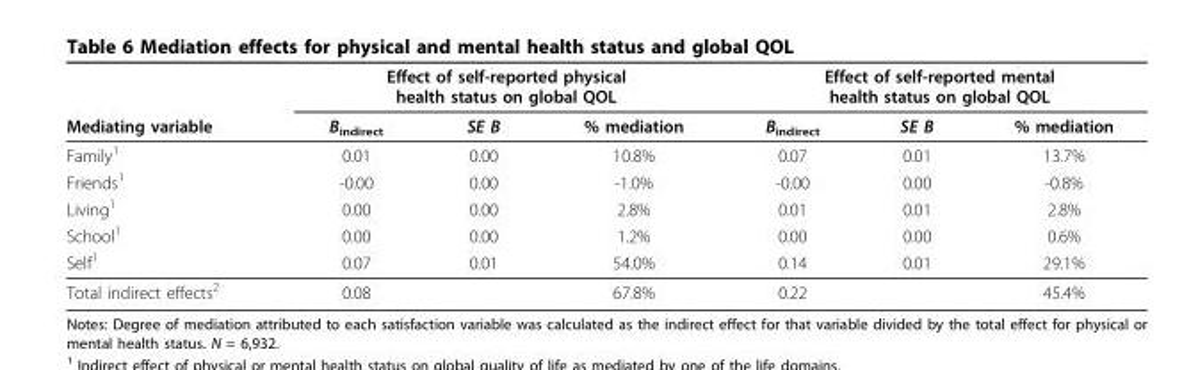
<table><thead><tr><td rowspan="2">Mediating variable</td><td colspan="3">Effect of self-reported physical health status on global QOL</td><td colspan="3">Effect of self-reported mental health status on global QOL</td></tr><tr><td>B<sub>indirect</sub></td><td>SE B</td><td>% mediation</td><td>B<sub>indirect</sub></td><td>SE B</td><td>% mediation</td></tr></thead><tbody><tr><td>Family<sup>1</sup></td><td>0.01</td><td>0.00</td><td>10.8%</td><td>0.07</td><td>0.01</td><td>13.7%</td></tr><tr><td>Friends<sup>1</sup></td><td>-0.00</td><td>0.00</td><td>-1.0%</td><td>-0.00</td><td>0.00</td><td>-0.8%</td></tr><tr><td>Living<sup>1</sup></td><td>0.00</td><td>0.00</td><td>2.8%</td><td>0.01</td><td>0.01</td><td>2.8%</td></tr><tr><td>School<sup>1</sup></td><td>0.00</td><td>0.00</td><td>1.2%</td><td>0.00</td><td>0.00</td><td>0.6%</td></tr><tr><td>Self<sup>1</sup></td><td>0.07</td><td>0.01</td><td>54.0%</td><td>0.14</td><td>0.01</td><td>29.1%</td></tr><tr><td>Total indirect effects<sup>2</sup></td><td>0.08</td><td></td><td>67.8%</td><td>0.22</td><td></td><td>45.4%</td></tr></tbody></table>